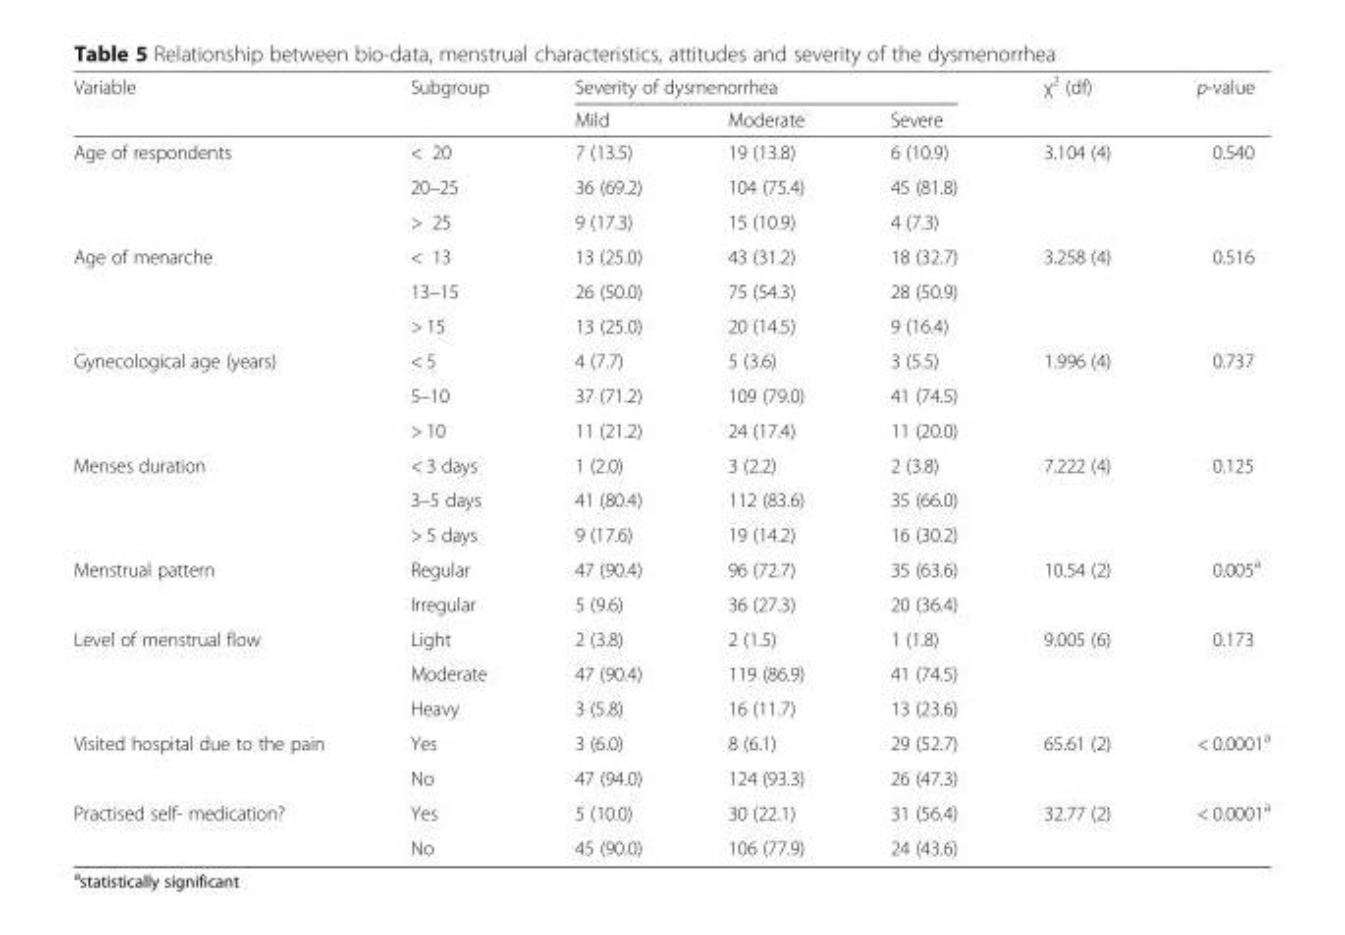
<table><thead><tr><td rowspan="2">Variable</td><td rowspan="2">Subgroup</td><td colspan="3">Severity of dysmenorrhea</td><td rowspan="2">χ<sup>2</sup> (df)</td><td rowspan="2">p-value</td></tr><tr><td>Mild</td><td>Moderate</td><td>Severe</td></tr></thead><tbody><tr><td rowspan="3">Age of respondents</td><td>&lt; 20</td><td>7 (13.5)</td><td>19 (13.8)</td><td>6 (10.9)</td><td rowspan="3">3.104 (4)</td><td rowspan="3">0.540</td></tr><tr><td>20–25</td><td>36 (69.2)</td><td>104 (75.4)</td><td>45 (81.8)</td></tr><tr><td>&gt; 25</td><td>9 (17.3)</td><td>15 (10.9)</td><td>4 (7.3)</td></tr><tr><td rowspan="3">Age of menarche</td><td>&lt; 13</td><td>13 (25.0)</td><td>43 (31.2)</td><td>18 (32.7)</td><td rowspan="3">3.258 (4)</td><td rowspan="3">0.516</td></tr><tr><td>13–15</td><td>26 (50.0)</td><td>75 (54.3)</td><td>28 (50.9)</td></tr><tr><td>&gt; 15</td><td>13 (25.0)</td><td>20 (14.5)</td><td>9 (16.4)</td></tr><tr><td rowspan="3">Gynecological age (years)</td><td>&lt; 5</td><td>4 (7.7)</td><td>5 (3.6)</td><td>3 (5.5)</td><td rowspan="3">1.996 (4)</td><td rowspan="3">0.737</td></tr><tr><td>5–10</td><td>37 (71.2)</td><td>109 (79.0)</td><td>41 (74.5)</td></tr><tr><td>&gt; 10</td><td>11 (21.2)</td><td>24 (17.4)</td><td>11 (20.0)</td></tr><tr><td rowspan="3">Menses duration</td><td>&lt; 3 days</td><td>1 (2.0)</td><td>3 (2.2)</td><td>2 (3.8)</td><td rowspan="3">7.222 (4)</td><td rowspan="3">0.125</td></tr><tr><td>3–5 days</td><td>41 (80.4)</td><td>112 (83.6)</td><td>35 (66.0)</td></tr><tr><td>&gt; 5 days</td><td>9 (17.6)</td><td>19 (14.2)</td><td>16 (30.2)</td></tr><tr><td rowspan="2">Menstrual pattern</td><td>Regular</td><td>47 (90.4)</td><td>96 (72.7)</td><td>35 (63.6)</td><td rowspan="2">10.54 (2)</td><td rowspan="2">0.005<sup>a</sup></td></tr><tr><td>Irregular</td><td>5 (9.6)</td><td>36 (27.3)</td><td>20 (36.4)</td></tr><tr><td rowspan="3">Level of menstrual flow</td><td>Light</td><td>2 (3.8)</td><td>2 (1.5)</td><td>1 (1.8)</td><td rowspan="3">9.005 (6)</td><td rowspan="3">0.173</td></tr><tr><td>Moderate</td><td>47 (90.4)</td><td>119 (86.9)</td><td>41 (74.5)</td></tr><tr><td>Heavy</td><td>3 (5.8)</td><td>16 (11.7)</td><td>13 (23.6)</td></tr><tr><td rowspan="2">Visited hospital due to the pain</td><td>Yes</td><td>3 (6.0)</td><td>8 (6.1)</td><td>29 (52.7)</td><td rowspan="2">65.61 (2)</td><td rowspan="2">&lt; 0.0001<sup>a</sup></td></tr><tr><td>No</td><td>47 (94.0)</td><td>124 (93.3)</td><td>26 (47.3)</td></tr><tr><td rowspan="2">Practised self- medication?</td><td>Yes</td><td>5 (10.0)</td><td>30 (22.1)</td><td>31 (56.4)</td><td rowspan="2">32.77 (2)</td><td rowspan="2">&lt; 0.0001<sup>a</sup></td></tr><tr><td>No</td><td>45 (90.0)</td><td>106 (77.9)</td><td>24 (43.6)</td></tr></tbody></table>